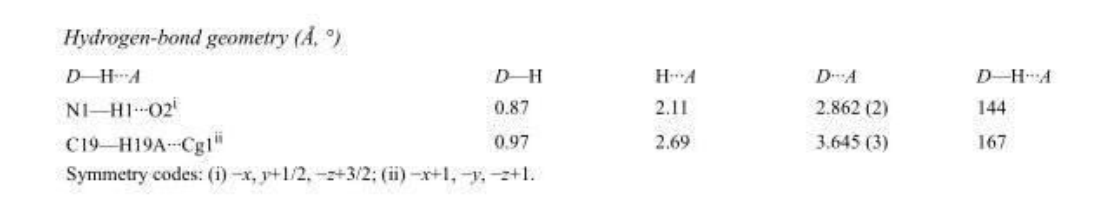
<table><tbody><tr><td>D—H···A</td><td>D—H</td><td>H···A</td><td>D···A</td><td>D—H···A</td></tr><tr><td>N1—H1···O2<sup>i</sup></td><td>0.87</td><td>2.11</td><td>2.862 (2)</td><td>144</td></tr><tr><td>C19—H19A···Cg1<sup>ii</sup></td><td>0.97</td><td>2.69</td><td>3.645 (3)</td><td>167</td></tr></tbody></table>